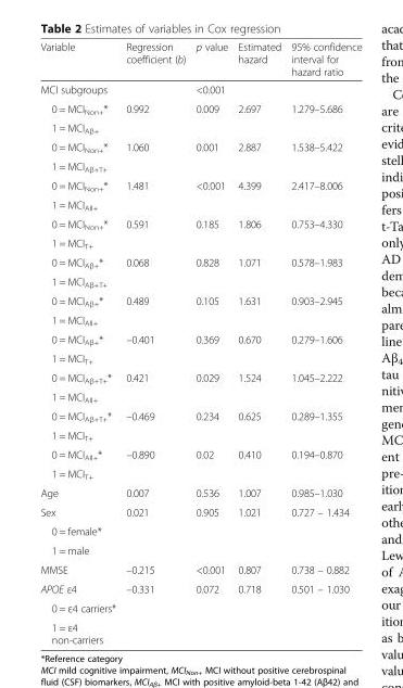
<table><thead><tr><td>Variable</td><td>Regression coefficient (b)</td><td>p value</td><td>Estimated hazard</td><td>95% confidence interval for hazard ratio</td></tr></thead><tbody><tr><td>MCI subgroups</td><td></td><td>&lt;0.001</td><td></td><td></td></tr><tr><td>0 = MCI<sub>Non+</sub>*</td><td rowspan="2">0.992</td><td rowspan="2">0.009</td><td rowspan="2">2.697</td><td rowspan="2">1.279–5.686</td></tr><tr><td>1 = MCI<sub>Aβ+</sub></td></tr><tr><td>0 = MCI<sub>Non+</sub>*</td><td rowspan="2">1.060</td><td rowspan="2">0.001</td><td rowspan="2">2.887</td><td rowspan="2">1.538–5.422</td></tr><tr><td>1 = MCI<sub>Aβ+T+</sub></td></tr><tr><td>0 = MCI<sub>Non+</sub>*</td><td rowspan="2">1.481</td><td rowspan="2">&lt;0.001</td><td rowspan="2">4.399</td><td rowspan="2">2.417–8.006</td></tr><tr><td>1 = MCI<sub>All+</sub></td></tr><tr><td>0 = MCI<sub>Non+</sub>*</td><td rowspan="2">0.591</td><td rowspan="2">0.185</td><td rowspan="2">1.806</td><td rowspan="2">0.753–4.330</td></tr><tr><td>1 = MCI<sub>T+</sub></td></tr><tr><td>0 = MCI<sub>Aβ+</sub>*</td><td rowspan="2">0.068</td><td rowspan="2">0.828</td><td rowspan="2">1.071</td><td rowspan="2">0.578–1.983</td></tr><tr><td>1 = MCI<sub>Aβ+T+</sub></td></tr><tr><td>0 = MCI<sub>Aβ+</sub>*</td><td rowspan="2">0.489</td><td rowspan="2">0.105</td><td rowspan="2">1.631</td><td rowspan="2">0.903–2.945</td></tr><tr><td>1 = MCI<sub>All+</sub></td></tr><tr><td>0 = MCI<sub>Aβ+</sub>*</td><td rowspan="2">–0.401</td><td rowspan="2">0.369</td><td rowspan="2">0.670</td><td rowspan="2">0.279–1.606</td></tr><tr><td>1 = MCI<sub>T+</sub></td></tr><tr><td>0 = MCI<sub>Aβ+T+</sub>*</td><td rowspan="2">0.421</td><td rowspan="2">0.029</td><td rowspan="2">1.524</td><td rowspan="2">1.045–2.222</td></tr><tr><td>1 = MCI<sub>All+</sub></td></tr><tr><td>0 = MCI<sub>Aβ+T+</sub>*</td><td rowspan="2">–0.469</td><td rowspan="2">0.234</td><td rowspan="2">0.625</td><td rowspan="2">0.289–1.355</td></tr><tr><td>1 = MCI<sub>T+</sub></td></tr><tr><td>0 = MCI<sub>All+</sub>*</td><td rowspan="2">–0.890</td><td rowspan="2">0.02</td><td rowspan="2">0.410</td><td rowspan="2">0.194–0.870</td></tr><tr><td>1 = MCI<sub>T+</sub></td></tr><tr><td>Age</td><td>0.007</td><td>0.536</td><td>1.007</td><td>0.985–1.030</td></tr><tr><td>Sex</td><td rowspan="3">0.021</td><td rowspan="3">0.905</td><td rowspan="3">1.021</td><td rowspan="3">0.727 – 1.434</td></tr><tr><td>0 = female*</td></tr><tr><td>1 = male</td></tr><tr><td>MMSE</td><td>–0.215</td><td>&lt;0.001</td><td>0.807</td><td>0.738 – 0.882</td></tr><tr><td>APOE ε4</td><td rowspan="3">–0.331</td><td rowspan="3">0.072</td><td rowspan="3">0.718</td><td rowspan="3">0.501 – 1.030</td></tr><tr><td>0 = ε4 carriers*</td></tr><tr><td>1 = ε4 non-carriers</td></tr></tbody></table>